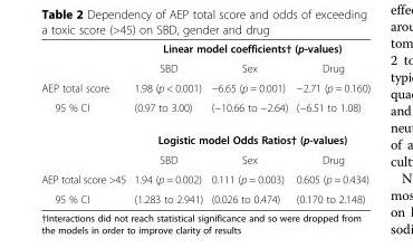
<table><thead><tr><td rowspan="2"></td><td colspan="3">Linear model coefficients† (p-values)</td></tr><tr><td>SBD</td><td>Sex</td><td>Drug</td></tr></thead><tbody><tr><td>AEP total score</td><td>1.98 (p &lt; 0.001)</td><td>−6.65 (p = 0.001)</td><td>−2.71 (p = 0.160)</td></tr><tr><td rowspan="3">95 % CI</td><td>(0.97 to 3.00)</td><td>(−10.66 to −2.64)</td><td>(−6.51 to 1.08)</td></tr><tr><td colspan="3">Logistic model Odds Ratios† (p-values)</td></tr><tr><td>SBD</td><td>Sex</td><td>Drug</td></tr><tr><td>AEP total score &gt;45</td><td>1.94 (p = 0.002)</td><td>0.111 (p = 0.003)</td><td>0.605 (p = 0.434)</td></tr><tr><td>95 % CI</td><td>(1.283 to 2.941)</td><td>(0.026 to 0.474)</td><td>(0.170 to 2.148)</td></tr></tbody></table>